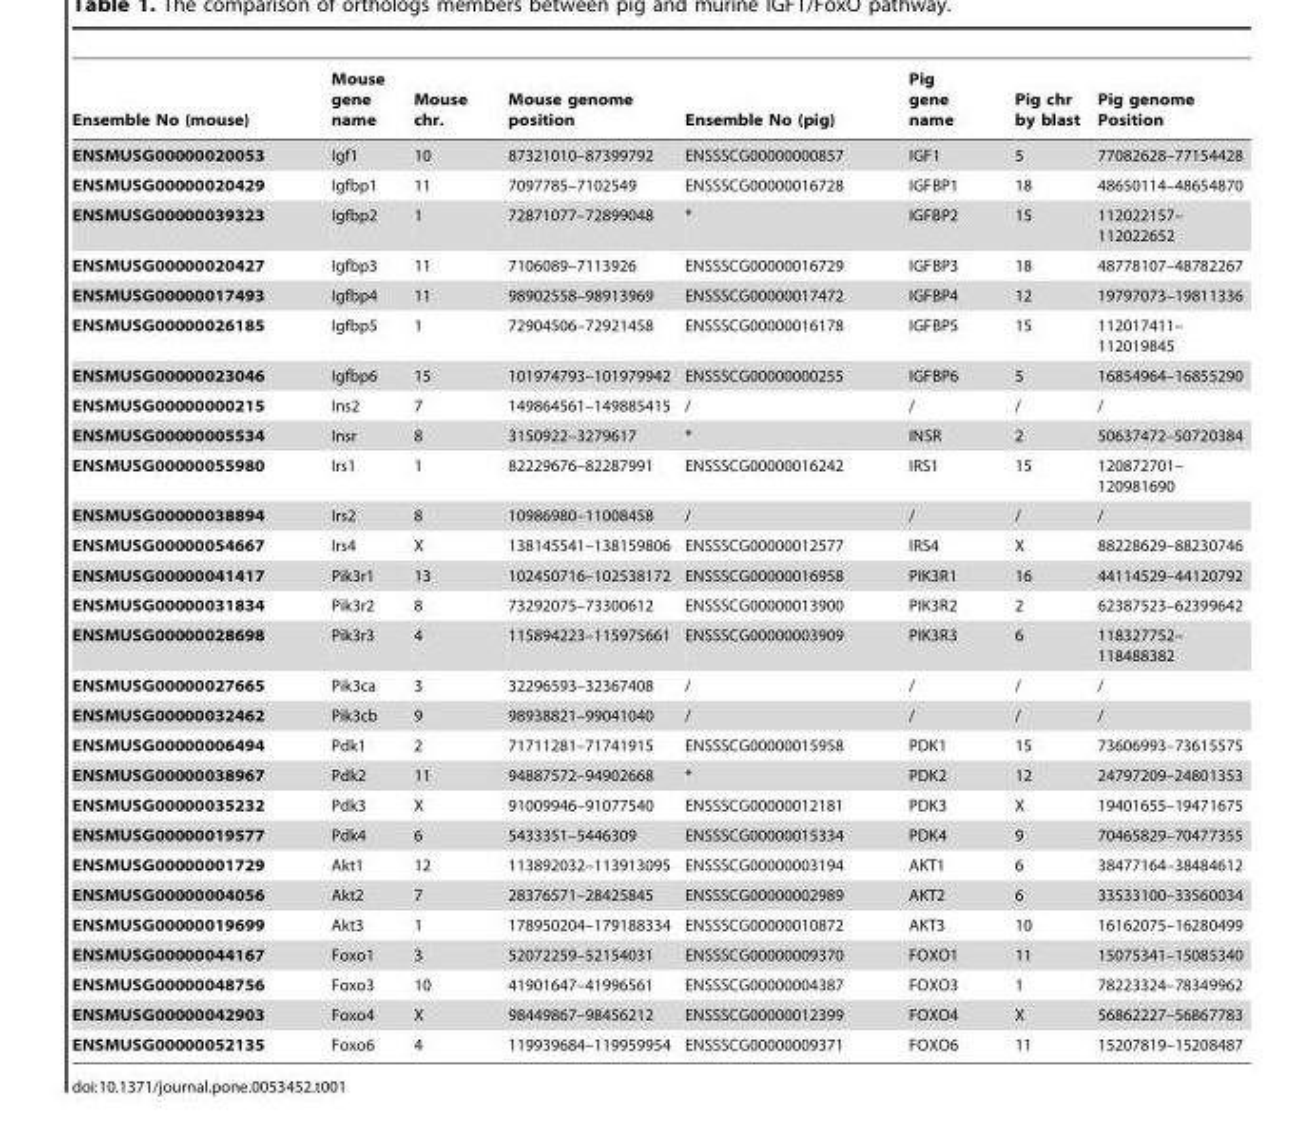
<table><thead><tr><td>Ensemble No (mouse)</td><td>Mouse gene name</td><td>Mouse chr.</td><td>Mouse genome position</td><td>Ensemble No (pig)</td><td>Pig gene name</td><td>Pig chr by blast</td><td>Pig genome Position</td></tr></thead><tbody><tr><td>ENSMUSG00000020053</td><td>Igf1</td><td>10</td><td>87321010–87399792</td><td>ENSSSCG00000000857</td><td>IGF1</td><td>5</td><td>77082628–77154428</td></tr><tr><td>ENSMUSG00000020429</td><td>Igfbp1</td><td>11</td><td>7097785–7102549</td><td>ENSSSCG00000016728</td><td>IGFBP1</td><td>18</td><td>48650114–48654870</td></tr><tr><td>ENSMUSG00000039323</td><td>Igfbp2</td><td>1</td><td>72871077–72899048</td><td>*</td><td>IGFBP2</td><td>15</td><td>112022157– 112022652</td></tr><tr><td>ENSMUSG00000020427</td><td>Igfbp3</td><td>11</td><td>7106089–7113926</td><td>ENSSSCG00000016729</td><td>IGFBP3</td><td>18</td><td>48778107–48782267</td></tr><tr><td>ENSMUSG00000017493</td><td>Igfbp4</td><td>11</td><td>98902558–98913969</td><td>ENSSSCG00000017472</td><td>IGFBP4</td><td>12</td><td>19797073–19811336</td></tr><tr><td>ENSMUSG00000026185</td><td>Igfbp5</td><td>1</td><td>72904506–72921458</td><td>ENSSSCG00000016178</td><td>IGFBP5</td><td>15</td><td>112017411– 112019845</td></tr><tr><td>ENSMUSG00000023046</td><td>Igfbp6</td><td>15</td><td>101974793–101979942</td><td>ENSSSCG00000000255</td><td>IGFBP6</td><td>5</td><td>16854964–16855290</td></tr><tr><td>ENSMUSG00000000215</td><td>Ins2</td><td>7</td><td>149864561–149885415</td><td>/</td><td>/</td><td>/</td><td>/</td></tr><tr><td>ENSMUSG00000005534</td><td>Insr</td><td>8</td><td>3150922–3279617</td><td>*</td><td>INSR</td><td>2</td><td>50637472–50720384</td></tr><tr><td>ENSMUSG00000055980</td><td>Irs1</td><td>1</td><td>82229676–82287991</td><td>ENSSSCG00000016242</td><td>IRS1</td><td>15</td><td>120872701– 120981690</td></tr><tr><td>ENSMUSG00000038894</td><td>Irs2</td><td>8</td><td>10986980–11008458</td><td>/</td><td>/</td><td>/</td><td>/</td></tr><tr><td>ENSMUSG00000054667</td><td>Irs4</td><td>X</td><td>138145541–138159806</td><td>ENSSSCG00000012577</td><td>IRS4</td><td>X</td><td>88228629–88230746</td></tr><tr><td>ENSMUSG00000041417</td><td>Pik3r1</td><td>13</td><td>102450716–102538172</td><td>ENSSSCG00000016958</td><td>PIK3R1</td><td>16</td><td>44114529–44120792</td></tr><tr><td>ENSMUSG00000031834</td><td>Pik3r2</td><td>8</td><td>73292075–73300612</td><td>ENSSSCG00000013900</td><td>PIK3R2</td><td>2</td><td>62387523–62399642</td></tr><tr><td>ENSMUSG00000028698</td><td>Pik3r3</td><td>4</td><td>115894223–115975661</td><td>ENSSSCG00000003909</td><td>PIK3R3</td><td>6</td><td>118327752– 118488382</td></tr><tr><td>ENSMUSG00000027665</td><td>Pik3ca</td><td>3</td><td>32296593–32367408</td><td>/</td><td>/</td><td>/</td><td>/</td></tr><tr><td>ENSMUSG00000032462</td><td>Pik3cb</td><td>9</td><td>98938821–99041040</td><td>/</td><td>/</td><td>/</td><td>/</td></tr><tr><td>ENSMUSG00000006494</td><td>Pdk1</td><td>2</td><td>71711281–71741915</td><td>ENSSSCG00000015958</td><td>PDK1</td><td>15</td><td>73606993–73615575</td></tr><tr><td>ENSMUSG00000038967</td><td>Pdk2</td><td>11</td><td>94887572–94902668</td><td>*</td><td>PDK2</td><td>12</td><td>24797209–24801353</td></tr><tr><td>ENSMUSG00000035232</td><td>Pdk3</td><td>X</td><td>91009946–91077540</td><td>ENSSSCG00000012181</td><td>PDK3</td><td>X</td><td>19401655–19471675</td></tr><tr><td>ENSMUSG00000019577</td><td>Pdk4</td><td>6</td><td>5433351–5446309</td><td>ENSSSCG00000015334</td><td>PDK4</td><td>9</td><td>70465829–70477355</td></tr><tr><td>ENSMUSG00000001729</td><td>Akt1</td><td>12</td><td>113892032–113913095</td><td>ENSSSCG00000003194</td><td>AKT1</td><td>6</td><td>38477164–38484612</td></tr><tr><td>ENSMUSG00000004056</td><td>Akt2</td><td>7</td><td>28376571–28425845</td><td>ENSSSCG00000002989</td><td>AKT2</td><td>6</td><td>33533100–33560034</td></tr><tr><td>ENSMUSG00000019699</td><td>Akt3</td><td>1</td><td>178950204–179188334</td><td>ENSSSCG00000010872</td><td>AKT3</td><td>10</td><td>16162075–16280499</td></tr><tr><td>ENSMUSG00000044167</td><td>Foxo1</td><td>3</td><td>52072259–52154031</td><td>ENSSSCG00000009370</td><td>FOXO1</td><td>11</td><td>15075341–15085340</td></tr><tr><td>ENSMUSG00000048756</td><td>Foxo3</td><td>10</td><td>41901647–41996561</td><td>ENSSSCG00000004387</td><td>FOXO3</td><td>1</td><td>78223324–78349962</td></tr><tr><td>ENSMUSG00000042903</td><td>Foxo4</td><td>X</td><td>98449867–98456212</td><td>ENSSSCG00000012399</td><td>FOXO4</td><td>X</td><td>56862227–56867783</td></tr><tr><td>ENSMUSG00000052135</td><td>Foxo6</td><td>4</td><td>119939684–119959954</td><td>ENSSSCG00000009371</td><td>FOXO6</td><td>11</td><td>15207819–15208487</td></tr></tbody></table>